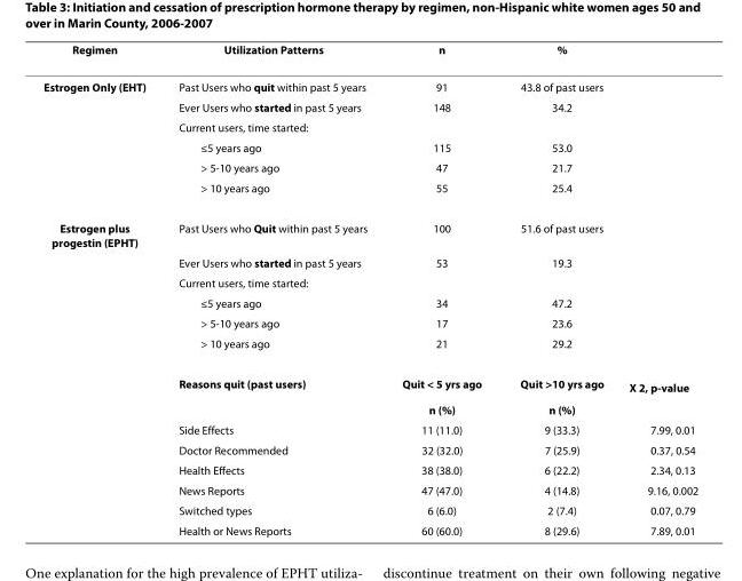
<table><thead><tr><td>Regimen</td><td>Utilization Patterns</td><td>n</td><td>%</td><td></td></tr></thead><tbody><tr><td rowspan="6">Estrogen Only (EHT)</td><td>Past Users who quit within past 5 years</td><td>91</td><td>43.8 of past users</td><td></td></tr><tr><td>Ever Users who started in past 5 years</td><td>148</td><td>34.2</td><td></td></tr><tr><td>Current users, time started:</td><td></td><td></td><td></td></tr><tr><td>≤5 years ago</td><td>115</td><td>53.0</td><td></td></tr><tr><td>&gt; 5-10 years ago</td><td>47</td><td>21.7</td><td></td></tr><tr><td>&gt; 10 years ago</td><td>55</td><td>25.4</td><td></td></tr><tr><td rowspan="14">Estrogen plus progestin (EPHT)</td><td>Past Users who Quit within past 5 years</td><td>100</td><td>51.6 of past users</td><td></td></tr><tr><td>Ever Users who started in past 5 years</td><td>53</td><td>19.3</td><td></td></tr><tr><td>Current users, time started:</td><td></td><td></td><td></td></tr><tr><td>≤5 years ago</td><td>34</td><td>47.2</td><td></td></tr><tr><td>&gt; 5-10 years ago</td><td>17</td><td>23.6</td><td></td></tr><tr><td>&gt; 10 years ago</td><td>21</td><td>29.2</td><td></td></tr><tr><td>Reasons quit (past users)</td><td>Quit &lt; 5 yrs ago</td><td>Quit &gt;10 yrs ago</td><td>X <sup>2</sup>, p-value</td></tr><tr><td></td><td>n (%)</td><td>n (%)</td><td></td></tr><tr><td>Side Effects</td><td>11 (11.0)</td><td>9 (33.3)</td><td>7.99, 0.01</td></tr><tr><td>Doctor Recommended</td><td>32 (32.0)</td><td>7 (25.9)</td><td>0.37, 0.54</td></tr><tr><td>Health Effects</td><td>38 (38.0)</td><td>6 (22.2)</td><td>2.34, 0.13</td></tr><tr><td>News Reports</td><td>47 (47.0)</td><td>4 (14.8)</td><td>9.16, 0.002</td></tr><tr><td>Switched types</td><td>6 (6.0)</td><td>2 (7.4)</td><td>0.07, 0.79</td></tr><tr><td>Health or News Reports</td><td>60 (60.0)</td><td>8 (29.6)</td><td>7.89, 0.01</td></tr></tbody></table>